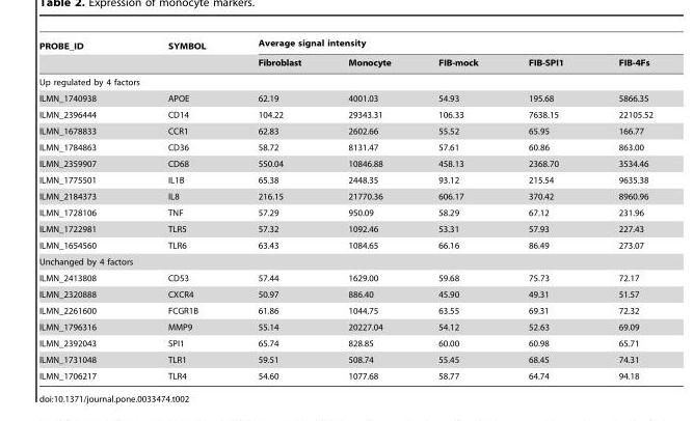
<table><thead><tr><td rowspan="2">PROBE_ID</td><td rowspan="2">SYMBOL</td><td colspan="5">Average signal intensity</td></tr><tr><td>Fibroblast</td><td>Monocyte</td><td>FIB-mock</td><td>FIB-SPI1</td><td>FIB-4Fs</td></tr></thead><tbody><tr><td colspan="7">Up regulated by 4 factors</td></tr><tr><td>ILMN_1740938</td><td>APOE</td><td>62.19</td><td>4001.03</td><td>54.93</td><td>195.68</td><td>5866.35</td></tr><tr><td>ILMN_2396444</td><td>CD14</td><td>104.22</td><td>29343.31</td><td>106.33</td><td>7638.15</td><td>22105.52</td></tr><tr><td>ILMN_1678833</td><td>CCR1</td><td>62.83</td><td>2602.66</td><td>55.52</td><td>65.95</td><td>166.77</td></tr><tr><td>ILMN_1784863</td><td>CD36</td><td>58.72</td><td>8131.47</td><td>57.61</td><td>60.86</td><td>863.00</td></tr><tr><td>ILMN_2359907</td><td>CD68</td><td>550.04</td><td>10846.88</td><td>458.13</td><td>2368.70</td><td>3534.46</td></tr><tr><td>ILMN_1775501</td><td>IL1B</td><td>65.38</td><td>2448.35</td><td>93.12</td><td>215.54</td><td>9635.38</td></tr><tr><td>ILMN_2184373</td><td>IL8</td><td>216.15</td><td>21770.36</td><td>606.17</td><td>370.42</td><td>8960.96</td></tr><tr><td>ILMN_1728106</td><td>TNF</td><td>57.29</td><td>950.09</td><td>58.29</td><td>67.12</td><td>231.96</td></tr><tr><td>ILMN_1722981</td><td>TLR5</td><td>57.32</td><td>1092.46</td><td>53.31</td><td>57.93</td><td>227.43</td></tr><tr><td>ILMN_1654560</td><td>TLR6</td><td>63.43</td><td>1084.65</td><td>66.16</td><td>86.49</td><td>273.07</td></tr><tr><td colspan="7">Unchanged by 4 factors</td></tr><tr><td>ILMN_2413808</td><td>CD53</td><td>57.44</td><td>1629.00</td><td>59.68</td><td>75.73</td><td>72.17</td></tr><tr><td>ILMN_2320888</td><td>CXCR4</td><td>50.97</td><td>886.40</td><td>45.90</td><td>49.31</td><td>51.57</td></tr><tr><td>ILMN_2261600</td><td>FCGR1B</td><td>61.86</td><td>1044.75</td><td>63.55</td><td>69.31</td><td>72.32</td></tr><tr><td>ILMN_1796316</td><td>MMP9</td><td>55.14</td><td>20227.04</td><td>54.12</td><td>52.63</td><td>69.09</td></tr><tr><td>ILMN_2392043</td><td>SPI1</td><td>65.74</td><td>828.85</td><td>60.00</td><td>60.98</td><td>65.71</td></tr><tr><td>ILMN_1731048</td><td>TLR1</td><td>59.51</td><td>508.74</td><td>55.45</td><td>68.45</td><td>74.31</td></tr><tr><td>ILMN_1706217</td><td>TLR4</td><td>54.60</td><td>1077.68</td><td>58.77</td><td>64.74</td><td>94.18</td></tr></tbody></table>